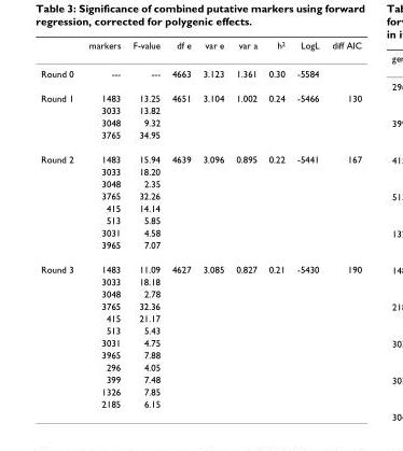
<table><thead><tr><td></td><td>markers</td><td>F-value</td><td>df e</td><td>var e</td><td>var a</td><td>h<sup>2</sup></td><td>LogL</td><td>diff AIC</td></tr></thead><tbody><tr><td>Round 0</td><td>---</td><td>---</td><td>4663</td><td>3.123</td><td>1.361</td><td>0.30</td><td>-5584</td><td></td></tr><tr><td rowspan="4">Round 1</td><td>1483</td><td>13.25</td><td>4651</td><td>3.104</td><td>1.002</td><td>0.24</td><td>-5466</td><td>130</td></tr><tr><td>3033</td><td>13.82</td><td></td><td></td><td></td><td></td><td></td><td></td></tr><tr><td>3048</td><td>9.32</td><td></td><td></td><td></td><td></td><td></td><td></td></tr><tr><td>3765</td><td>34.95</td><td></td><td></td><td></td><td></td><td></td><td></td></tr><tr><td rowspan="8">Round 2</td><td>1483</td><td>15.94</td><td>4639</td><td>3.096</td><td>0.895</td><td>0.22</td><td>-5441</td><td>167</td></tr><tr><td>3033</td><td>18.20</td><td></td><td></td><td></td><td></td><td></td><td></td></tr><tr><td>3048</td><td>2.35</td><td></td><td></td><td></td><td></td><td></td><td></td></tr><tr><td>3765</td><td>32.26</td><td></td><td></td><td></td><td></td><td></td><td></td></tr><tr><td>415</td><td>14.14</td><td></td><td></td><td></td><td></td><td></td><td></td></tr><tr><td>513</td><td>5.85</td><td></td><td></td><td></td><td></td><td></td><td></td></tr><tr><td>3031</td><td>4.58</td><td></td><td></td><td></td><td></td><td></td><td></td></tr><tr><td>3965</td><td>7.07</td><td></td><td></td><td></td><td></td><td></td><td></td></tr><tr><td rowspan="12">Round 3</td><td>1483</td><td>11.09</td><td>4627</td><td>3.085</td><td>0.827</td><td>0.21</td><td>-5430</td><td>190</td></tr><tr><td>3033</td><td>18.18</td><td></td><td></td><td></td><td></td><td></td><td></td></tr><tr><td>3048</td><td>2.78</td><td></td><td></td><td></td><td></td><td></td><td></td></tr><tr><td>3765</td><td>32.36</td><td></td><td></td><td></td><td></td><td></td><td></td></tr><tr><td>415</td><td>21.17</td><td></td><td></td><td></td><td></td><td></td><td></td></tr><tr><td>513</td><td>5.43</td><td></td><td></td><td></td><td></td><td></td><td></td></tr><tr><td>3031</td><td>4.75</td><td></td><td></td><td></td><td></td><td></td><td></td></tr><tr><td>3965</td><td>7.88</td><td></td><td></td><td></td><td></td><td></td><td></td></tr><tr><td>296</td><td>4.05</td><td></td><td></td><td></td><td></td><td></td><td></td></tr><tr><td>399</td><td>7.48</td><td></td><td></td><td></td><td></td><td></td><td></td></tr><tr><td>1326</td><td>7.85</td><td></td><td></td><td></td><td></td><td></td><td></td></tr><tr><td>2185</td><td>6.15</td><td></td><td></td><td></td><td></td><td></td><td></td></tr></tbody></table>